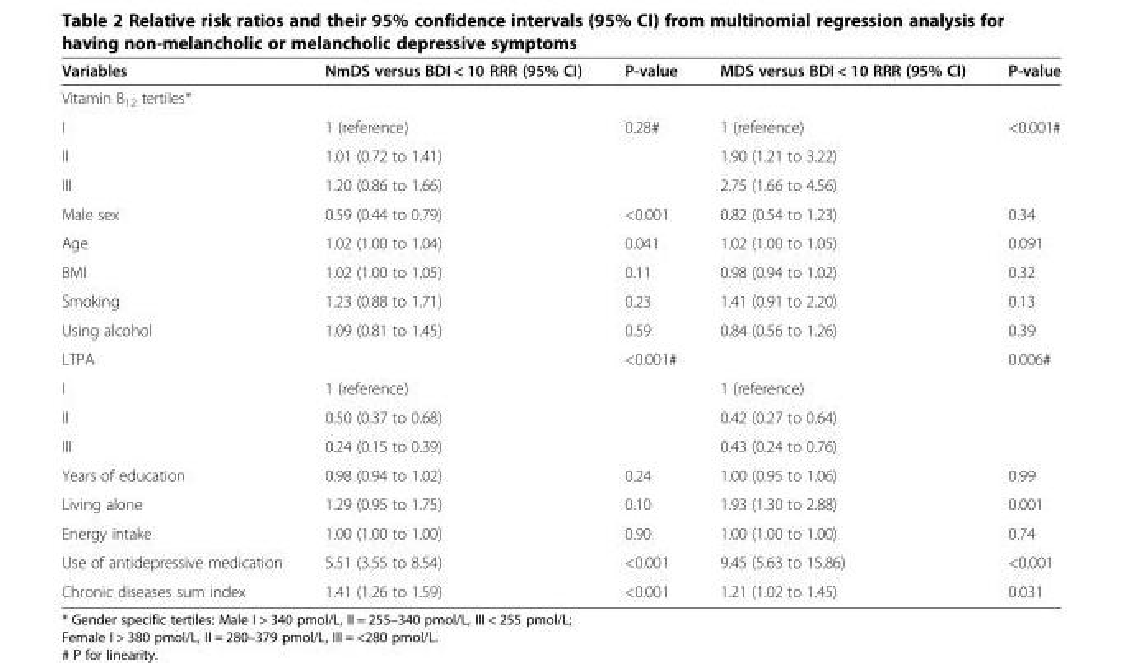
<table><thead><tr><td>Variables</td><td>NmDS versus BDI &lt; 10 RRR (95% CI)</td><td>P-value</td><td>MDS versus BDI &lt; 10 RRR (95% CI)</td><td>P-value</td></tr></thead><tbody><tr><td colspan="5">Vitamin B<sub>12</sub> tertiles*</td></tr><tr><td>I</td><td>1 (reference)</td><td>0.28#</td><td>1 (reference)</td><td>&lt;0.001#</td></tr><tr><td>II</td><td>1.01 (0.72 to 1.41)</td><td></td><td>1.90 (1.21 to 3.22)</td><td></td></tr><tr><td>III</td><td>1.20 (0.86 to 1.66)</td><td></td><td>2.75 (1.66 to 4.56)</td><td></td></tr><tr><td>Male sex</td><td>0.59 (0.44 to 0.79)</td><td>&lt;0.001</td><td>0.82 (0.54 to 1.23)</td><td>0.34</td></tr><tr><td>Age</td><td>1.02 (1.00 to 1.04)</td><td>0.041</td><td>1.02 (1.00 to 1.05)</td><td>0.091</td></tr><tr><td>BMI</td><td>1.02 (1.00 to 1.05)</td><td>0.11</td><td>0.98 (0.94 to 1.02)</td><td>0.32</td></tr><tr><td>Smoking</td><td>1.23 (0.88 to 1.71)</td><td>0.23</td><td>1.41 (0.91 to 2.20)</td><td>0.13</td></tr><tr><td>Using alcohol</td><td>1.09 (0.81 to 1.45)</td><td>0.59</td><td>0.84 (0.56 to 1.26)</td><td>0.39</td></tr><tr><td>LTPA</td><td></td><td>&lt;0.001#</td><td></td><td>0.006#</td></tr><tr><td>I</td><td>1 (reference)</td><td></td><td>1 (reference)</td><td></td></tr><tr><td>II</td><td>0.50 (0.37 to 0.68)</td><td></td><td>0.42 (0.27 to 0.64)</td><td></td></tr><tr><td>III</td><td>0.24 (0.15 to 0.39)</td><td></td><td>0.43 (0.24 to 0.76)</td><td></td></tr><tr><td>Years of education</td><td>0.98 (0.94 to 1.02)</td><td>0.24</td><td>1.00 (0.95 to 1.06)</td><td>0.99</td></tr><tr><td>Living alone</td><td>1.29 (0.95 to 1.75)</td><td>0.10</td><td>1.93 (1.30 to 2.88)</td><td>0.001</td></tr><tr><td>Energy intake</td><td>1.00 (1.00 to 1.00)</td><td>0.90</td><td>1.00 (1.00 to 1.00)</td><td>0.74</td></tr><tr><td>Use of antidepressive medication</td><td>5.51 (3.55 to 8.54)</td><td>&lt;0.001</td><td>9.45 (5.63 to 15.86)</td><td>&lt;0.001</td></tr><tr><td>Chronic diseases sum index</td><td>1.41 (1.26 to 1.59)</td><td>&lt;0.001</td><td>1.21 (1.02 to 1.45)</td><td>0.031</td></tr></tbody></table>